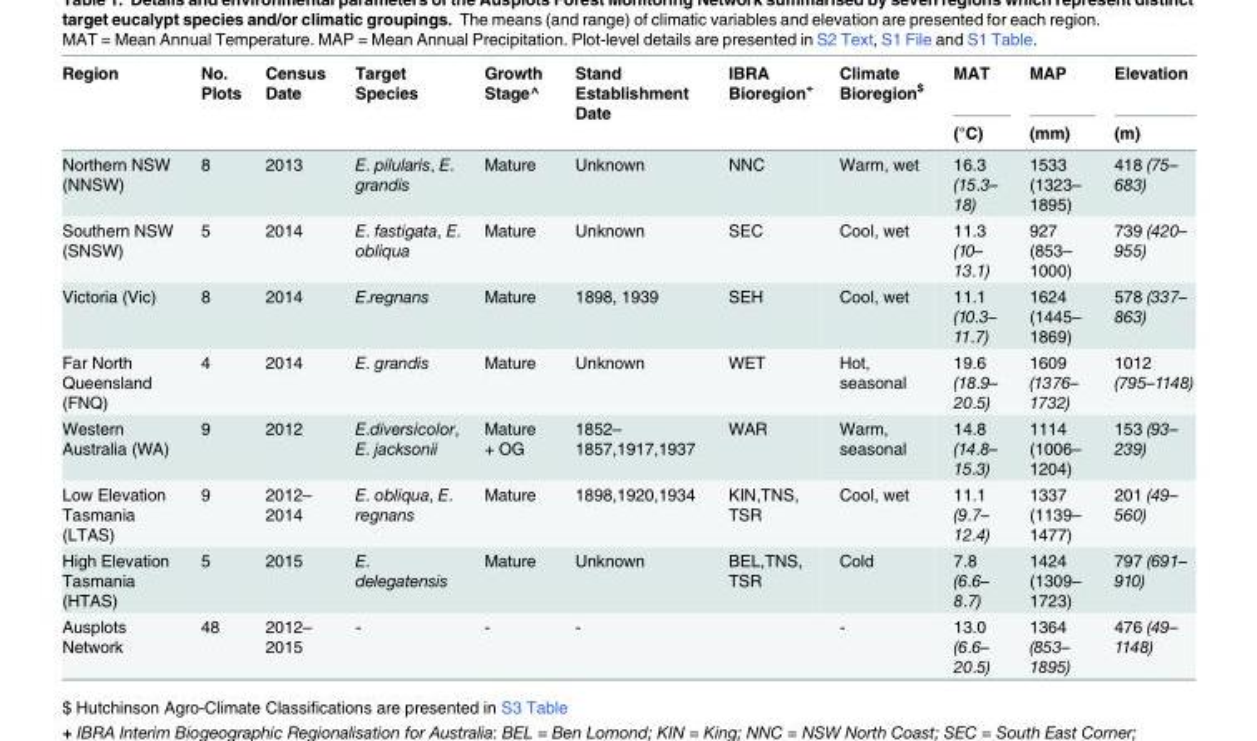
<table><thead><tr><td rowspan="2">Region</td><td rowspan="2">No. Plots</td><td rowspan="2">Census Date</td><td rowspan="2">Target Species</td><td rowspan="2">Growth Stage^</td><td rowspan="2">Stand Establishment Date</td><td rowspan="2">IBRA Bioregion<sup>+</sup></td><td rowspan="2">Climate Bioregion<sup>$</sup></td><td rowspan="2">MAT (°C)</td><td rowspan="2">MAP (mm)</td><td rowspan="2">Elevation (m)</td></tr><tr></tr></thead><tbody><tr><td>Northern NSW (NNSW)</td><td>8</td><td>2013</td><td>E. pilularis, E. grandis</td><td>Mature</td><td>Unknown</td><td>NNC</td><td>Warm, wet</td><td>16.3 (15.3– 18)</td><td>1533 (1323– 1895)</td><td>418 (75– 683)</td></tr><tr><td>Southern NSW (SNSW)</td><td>5</td><td>2014</td><td>E. fastigata, E. obliqua</td><td>Mature</td><td>Unknown</td><td>SEC</td><td>Cool, wet</td><td>11.3 (10– 13.1)</td><td>927 (853– 1000)</td><td>739 (420– 955)</td></tr><tr><td>Victoria (Vic)</td><td>8</td><td>2014</td><td>E.regnans</td><td>Mature</td><td>1898, 1939</td><td>SEH</td><td>Cool, wet</td><td>11.1 (10.3– 11.7)</td><td>1624 (1445– 1869)</td><td>578 (337– 863)</td></tr><tr><td>Far North Queensland (FNQ)</td><td>4</td><td>2014</td><td>E. grandis</td><td>Mature</td><td>Unknown</td><td>WET</td><td>Hot, seasonal</td><td>19.6 (18.9– 20.5)</td><td>1609 (1376– 1732)</td><td>1012 (795–1148)</td></tr><tr><td>Western Australia (WA)</td><td>9</td><td>2012</td><td>E.diversicolor, E. jacksonii</td><td>Mature + OG</td><td>1852– 1857,1917,1937</td><td>WAR</td><td>Warm, seasonal</td><td>14.8 (14.8– 15.3)</td><td>1114 (1006– 1204)</td><td>153 (93– 239)</td></tr><tr><td>Low Elevation Tasmania (LTAS)</td><td>9</td><td>2012– 2014</td><td>E. obliqua, E. regnans</td><td>Mature</td><td>1898,1920,1934</td><td>KIN,TNS, TSR</td><td>Cool, wet</td><td>11.1 (9.7– 12.4)</td><td>1337 (1139– 1477)</td><td>201 (49– 560)</td></tr><tr><td>High Elevation Tasmania (HTAS)</td><td>5</td><td>2015</td><td>E. delegatensis</td><td>Mature</td><td>Unknown</td><td>BEL,TNS, TSR</td><td>Cold</td><td>7.8 (6.6– 8.7)</td><td>1424 (1309– 1723)</td><td>797 (691– 910)</td></tr><tr><td>Ausplots Network</td><td>48</td><td>2012– 2015</td><td>-</td><td>-</td><td>-</td><td></td><td>-</td><td>13.0 (6.6– 20.5)</td><td>1364 (853– 1895)</td><td>476 (49– 1148)</td></tr></tbody></table>